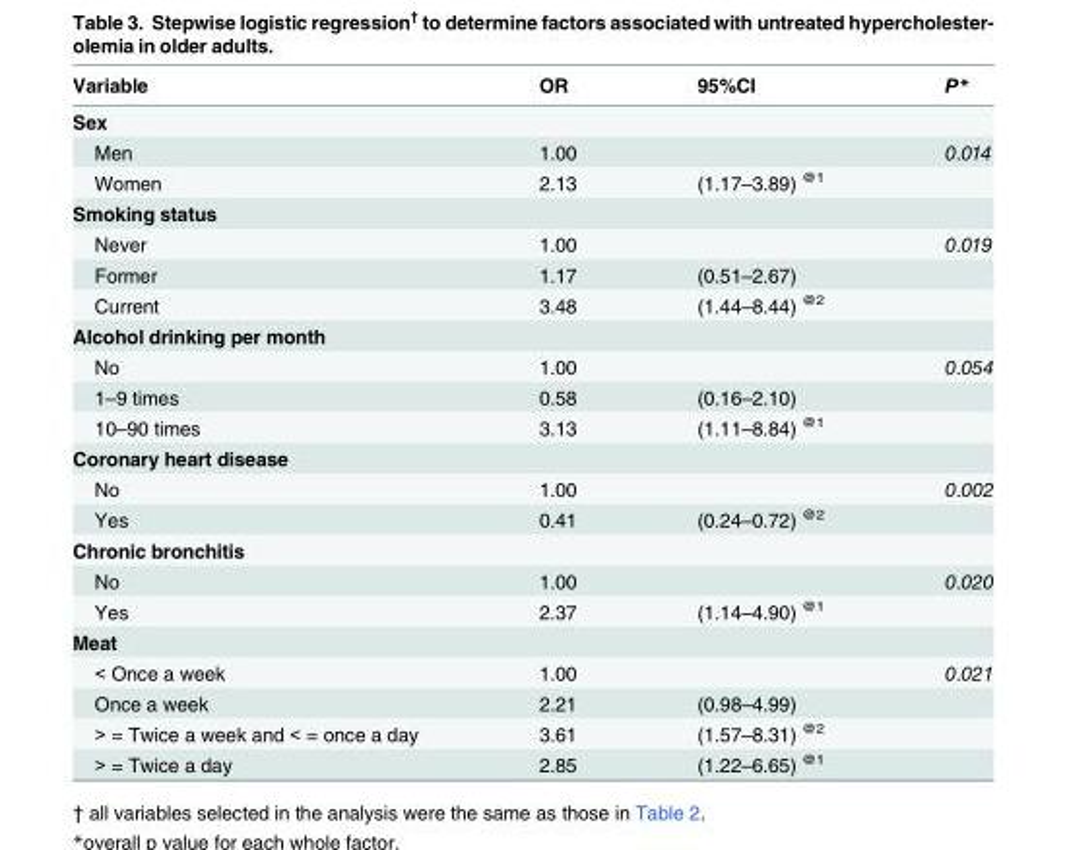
<table><thead><tr><td>Variable</td><td>OR</td><td>95%CI</td><td>P*</td></tr></thead><tbody><tr><td colspan="4">Sex</td></tr><tr><td>Men</td><td>1.00</td><td></td><td>0.014</td></tr><tr><td>Women</td><td>2.13</td><td>(1.17–3.89) <sup>@1</sup></td><td></td></tr><tr><td colspan="4">Smoking status</td></tr><tr><td>Never</td><td>1.00</td><td></td><td>0.019</td></tr><tr><td>Former</td><td>1.17</td><td>(0.51–2.67)</td><td></td></tr><tr><td>Current</td><td>3.48</td><td>(1.44–8.44) <sup>@2</sup></td><td></td></tr><tr><td colspan="4">Alcohol drinking per month</td></tr><tr><td>No</td><td>1.00</td><td></td><td>0.054</td></tr><tr><td>1–9 times</td><td>0.58</td><td>(0.16–2.10)</td><td></td></tr><tr><td>10–90 times</td><td>3.13</td><td>(1.11–8.84) <sup>@1</sup></td><td></td></tr><tr><td colspan="4">Coronary heart disease</td></tr><tr><td>No</td><td>1.00</td><td></td><td>0.002</td></tr><tr><td>Yes</td><td>0.41</td><td>(0.24–0.72) <sup>@2</sup></td><td></td></tr><tr><td colspan="4">Chronic bronchitis</td></tr><tr><td>No</td><td>1.00</td><td></td><td>0.020</td></tr><tr><td>Yes</td><td>2.37</td><td>(1.14–4.90) <sup>@1</sup></td><td></td></tr><tr><td colspan="4">Meat</td></tr><tr><td>&lt; Once a week</td><td>1.00</td><td></td><td>0.021</td></tr><tr><td>Once a week</td><td>2.21</td><td>(0.98–4.99)</td><td></td></tr><tr><td>&gt; = Twice a week and &lt; = once a day</td><td>3.61</td><td>(1.57–8.31) <sup>@2</sup></td><td></td></tr><tr><td>&gt; = Twice a day</td><td>2.85</td><td>(1.22–6.65) <sup>@1</sup></td><td></td></tr></tbody></table>